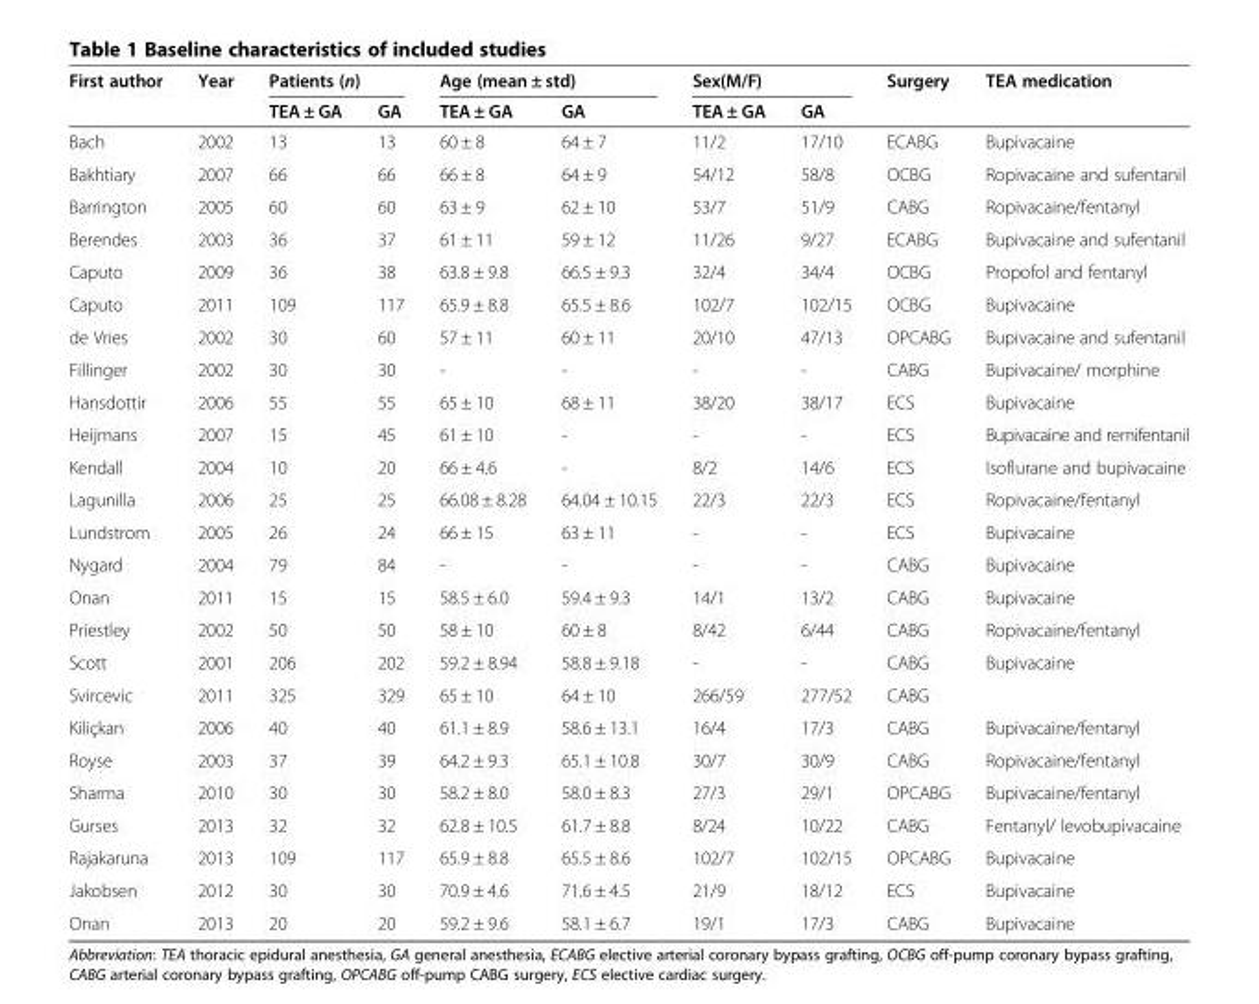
<table><thead><tr><td rowspan="2">First author</td><td rowspan="2">Year</td><td colspan="2">Patients (n)</td><td colspan="2">Age (mean ± std)</td><td colspan="2">Sex(M/F)</td><td rowspan="2">Surgery</td><td rowspan="2">TEA medication</td></tr><tr><td>TEA ± GA</td><td>GA</td><td>TEA ± GA</td><td>GA</td><td>TEA ± GA</td><td>GA</td></tr></thead><tbody><tr><td>Bach</td><td>2002</td><td>13</td><td>13</td><td>60 ± 8</td><td>64 ± 7</td><td>11/2</td><td>17/10</td><td>ECABG</td><td>Bupivacaine</td></tr><tr><td>Bakhtiary</td><td>2007</td><td>66</td><td>66</td><td>66 ± 8</td><td>64 ± 9</td><td>54/12</td><td>58/8</td><td>OCBG</td><td>Ropivacaine and sufentanil</td></tr><tr><td>Barrington</td><td>2005</td><td>60</td><td>60</td><td>63 ± 9</td><td>62 ± 10</td><td>53/7</td><td>51/9</td><td>CABG</td><td>Ropivacaine/fentanyl</td></tr><tr><td>Berendes</td><td>2003</td><td>36</td><td>37</td><td>61 ± 11</td><td>59 ± 12</td><td>11/26</td><td>9/27</td><td>ECABG</td><td>Bupivacaine and sufentanil</td></tr><tr><td>Caputo</td><td>2009</td><td>36</td><td>38</td><td>63.8 ± 9.8</td><td>66.5 ± 9.3</td><td>32/4</td><td>34/4</td><td>OCBG</td><td>Propofol and fentanyl</td></tr><tr><td>Caputo</td><td>2011</td><td>109</td><td>117</td><td>65.9 ± 8.8</td><td>65.5 ± 8.6</td><td>102/7</td><td>102/15</td><td>OCBG</td><td>Bupivacaine</td></tr><tr><td>de Vries</td><td>2002</td><td>30</td><td>60</td><td>57 ± 11</td><td>60 ± 11</td><td>20/10</td><td>47/13</td><td>OPCABG</td><td>Bupivacaine and sufentanil</td></tr><tr><td>Fillinger</td><td>2002</td><td>30</td><td>30</td><td>-</td><td>-</td><td>-</td><td>-</td><td>CABG</td><td>Bupivacaine/ morphine</td></tr><tr><td>Hansdottir</td><td>2006</td><td>55</td><td>55</td><td>65 ± 10</td><td>68 ± 11</td><td>38/20</td><td>38/17</td><td>ECS</td><td>Bupivacaine</td></tr><tr><td>Heijmans</td><td>2007</td><td>15</td><td>45</td><td>61 ± 10</td><td>-</td><td>-</td><td>-</td><td>ECS</td><td>Bupivacaine and remifentanil</td></tr><tr><td>Kendall</td><td>2004</td><td>10</td><td>20</td><td>66 ± 4.6</td><td>-</td><td>8/2</td><td>14/6</td><td>ECS</td><td>Isoflurane and bupivacaine</td></tr><tr><td>Lagunilla</td><td>2006</td><td>25</td><td>25</td><td>66.08 ± 8.28</td><td>64.04 ± 10.15</td><td>22/3</td><td>22/3</td><td>ECS</td><td>Ropivacaine/fentanyl</td></tr><tr><td>Lundstrom</td><td>2005</td><td>26</td><td>24</td><td>66 ± 15</td><td>63 ± 11</td><td>-</td><td>-</td><td>ECS</td><td>Bupivacaine</td></tr><tr><td>Nygard</td><td>2004</td><td>79</td><td>84</td><td>-</td><td>-</td><td>-</td><td>-</td><td>CABG</td><td>Bupivacaine</td></tr><tr><td>Onan</td><td>2011</td><td>15</td><td>15</td><td>58.5 ± 6.0</td><td>59.4 ± 9.3</td><td>14/1</td><td>13/2</td><td>CABG</td><td>Bupivacaine</td></tr><tr><td>Priestley</td><td>2002</td><td>50</td><td>50</td><td>58 ± 10</td><td>60 ± 8</td><td>8/42</td><td>6/44</td><td>CABG</td><td>Ropivacaine/fentanyl</td></tr><tr><td>Scott</td><td>2001</td><td>206</td><td>202</td><td>59.2 ± 8.94</td><td>58.8 ± 9.18</td><td>-</td><td>-</td><td>CABG</td><td>Bupivacaine</td></tr><tr><td>Svircevic</td><td>2011</td><td>325</td><td>329</td><td>65 ± 10</td><td>64 ± 10</td><td>266/59</td><td>277/52</td><td>CABG</td><td></td></tr><tr><td>Kiliçkan</td><td>2006</td><td>40</td><td>40</td><td>61.1 ± 8.9</td><td>58.6 ± 13.1</td><td>16/4</td><td>17/3</td><td>CABG</td><td>Bupivacaine/fentanyl</td></tr><tr><td>Royse</td><td>2003</td><td>37</td><td>39</td><td>64.2 ± 9.3</td><td>65.1 ± 10.8</td><td>30/7</td><td>30/9</td><td>CABG</td><td>Ropivacaine/fentanyl</td></tr><tr><td>Sharma</td><td>2010</td><td>30</td><td>30</td><td>58.2 ± 8.0</td><td>58.0 ± 8.3</td><td>27/3</td><td>29/1</td><td>OPCABG</td><td>Bupivacaine/fentanyl</td></tr><tr><td>Gurses</td><td>2013</td><td>32</td><td>32</td><td>62.8 ± 10.5</td><td>61.7 ± 8.8</td><td>8/24</td><td>10/22</td><td>CABG</td><td>Fentanyl/ levobupivacaine</td></tr><tr><td>Rajakaruna</td><td>2013</td><td>109</td><td>117</td><td>65.9 ± 8.8</td><td>65.5 ± 8.6</td><td>102/7</td><td>102/15</td><td>OPCABG</td><td>Bupivacaine</td></tr><tr><td>Jakobsen</td><td>2012</td><td>30</td><td>30</td><td>70.9 ± 4.6</td><td>71.6 ± 4.5</td><td>21/9</td><td>18/12</td><td>ECS</td><td>Bupivacaine</td></tr><tr><td>Onan</td><td>2013</td><td>20</td><td>20</td><td>59.2 ± 9.6</td><td>58.1 ± 6.7</td><td>19/1</td><td>17/3</td><td>CABG</td><td>Bupivacaine</td></tr></tbody></table>